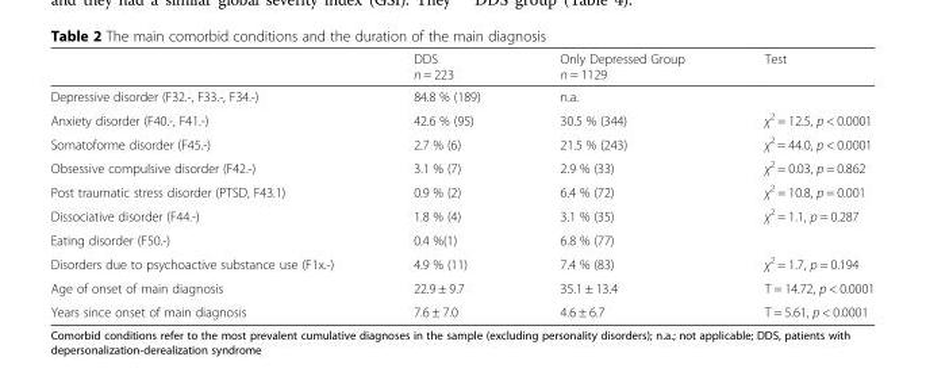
<table><thead><tr><td></td><td>DDS n = 223</td><td>Only Depressed Group n = 1129</td><td>Test</td></tr></thead><tbody><tr><td>Depressive disorder (F32.-, F33.-, F34.-)</td><td>84.8 % (189)</td><td>n.a.</td><td></td></tr><tr><td>Anxiety disorder (F40.-, F41.-)</td><td>42.6 % (95)</td><td>30.5 % (344)</td><td>χ<sup>2</sup> = 12.5, p &lt; 0.0001</td></tr><tr><td>Somatoforme disorder (F45.-)</td><td>2.7 % (6)</td><td>21.5 % (243)</td><td>χ<sup>2</sup> = 44.0, p &lt; 0.0001</td></tr><tr><td>Obsessive compulsive disorder (F42.-)</td><td>3.1 % (7)</td><td>2.9 % (33)</td><td>χ<sup>2</sup> = 0.03, p = 0.862</td></tr><tr><td>Post traumatic stress disorder (PTSD, F43.1)</td><td>0.9 % (2)</td><td>6.4 % (72)</td><td>χ<sup>2</sup> = 10.8, p = 0.001</td></tr><tr><td>Dissociative disorder (F44.-)</td><td>1.8 % (4)</td><td>3.1 % (35)</td><td>χ<sup>2</sup> = 1.1, p = 0.287</td></tr><tr><td>Eating disorder (F50.-)</td><td>0.4 %(1)</td><td>6.8 % (77)</td><td></td></tr><tr><td>Disorders due to psychoactive substance use (F1x.-)</td><td>4.9 % (11)</td><td>7.4 % (83)</td><td>χ<sup>2</sup> = 1.7, p = 0.194</td></tr><tr><td>Age of onset of main diagnosis</td><td>22.9 ± 9.7</td><td>35.1 ± 13.4</td><td>T = 14.72, p &lt; 0.0001</td></tr><tr><td>Years since onset of main diagnosis</td><td>7.6 ± 7.0</td><td>4.6 ± 6.7</td><td>T = 5.61, p &lt; 0.0001</td></tr></tbody></table>